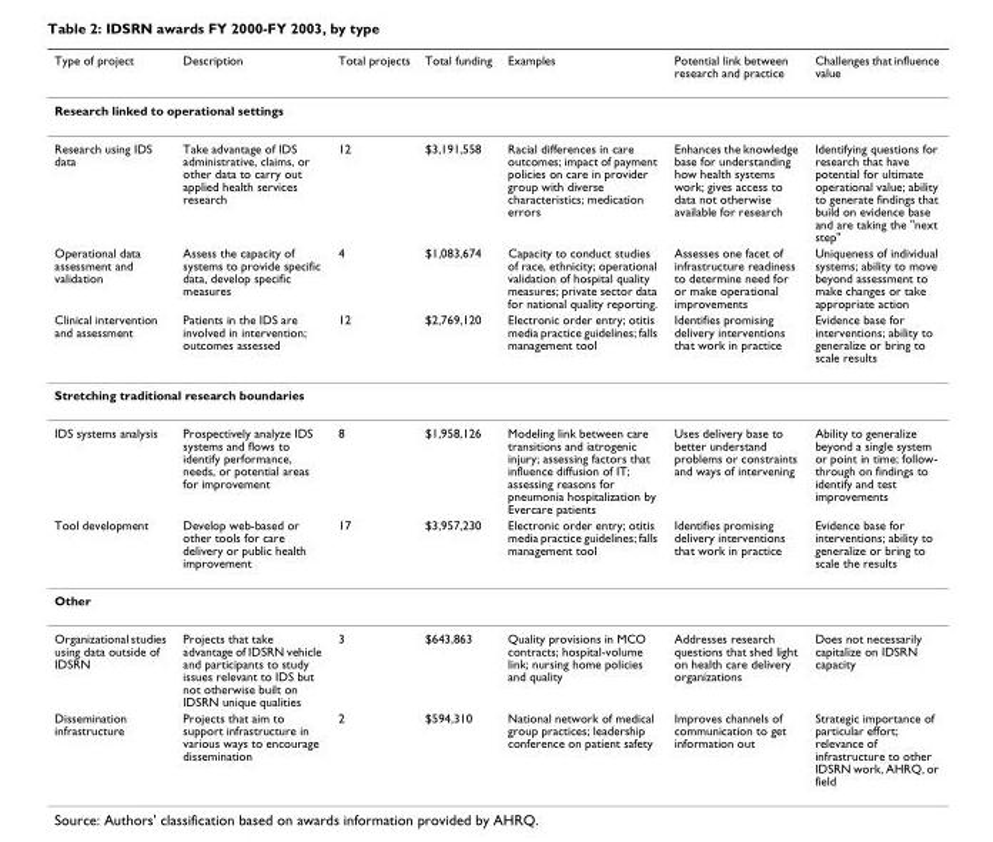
<table><thead><tr><td>Type of project</td><td>Description</td><td>Total projects</td><td>Total funding</td><td>Examples</td><td>Potential link between research and practice</td><td>Challenges that influence value</td></tr></thead><tbody><tr><td colspan="7">Research linked to operational settings</td></tr><tr><td>Research using IDS data</td><td>Take advantage of IDS administrative, claims, or other data to carry out applied health services research</td><td>12</td><td>$3,191,558</td><td>Racial differences in care outcomes; impact of payment policies on care in provider group with diverse characteristics; medication errors</td><td>Enhances the knowledge base for understanding how health systems work; gives access to data not otherwise available for research</td><td>Identifying questions for research that have potential for ultimate operational value; ability to generate findings that build on evidence base and are taking the &quot;next step&quot;</td></tr><tr><td>Operational data assessment and validation</td><td>Assess the capacity of systems to provide specific data, develop specific measures</td><td>4</td><td>$1,083,674</td><td>Capacity to conduct studies of race, ethnicity; operational validation of hospital quality measures; private sector data for national quality reporting.</td><td>Assesses one facet of infrastructure readiness to determine need for or make operational improvements</td><td>Uniqueness of individual systems; ability to move beyond assessment to make changes or take appropriate action</td></tr><tr><td>Clinical intervention and assessment</td><td>Patients in the IDS are involved in intervention; outcomes assessed</td><td>12</td><td>$2,769,120</td><td>Electronic order entry; otitis media practice guidelines; falls management tool</td><td>Identifies promising delivery interventions that work in practice</td><td>Evidence base for interventions; ability to generalize or bring to scale results</td></tr><tr><td colspan="7">Stretching traditional research boundaries</td></tr><tr><td>IDS systems analysis</td><td>Prospectively analyze IDS systems and flows to identify performance, needs, or potential areas for improvement</td><td>8</td><td>$1,958,126</td><td>Modeling link between care transitions and iatrogenic injury; assessing factors that influence diffusion of IT; assessing reasons for pneumonia hospitalization by Evercare patients</td><td>Uses delivery base to better understand problems or constraints and ways of intervening</td><td>Ability to generalize beyond a single system or point in time; follow- through on findings to identify and test improvements</td></tr><tr><td>Tool development</td><td>Develop web-based or other tools for care delivery or public health improvement</td><td>17</td><td>$3,957,230</td><td>Electronic order entry; otitis media practice guidelines; falls management tool</td><td>Identifies promising delivery interventions that work in practice</td><td>Evidence base for interventions; ability to generalize or bring to scale the results</td></tr><tr><td colspan="7">Other</td></tr><tr><td>Organizational studies using data outside of IDSRN</td><td>Projects that take advantage of IDSRN vehicle and participants to study issues relevant to IDS but not otherwise built on IDSRN unique qualities</td><td>3</td><td>$643,863</td><td>Quality provisions in MCO contracts; hospital-volume link; nursing home policies and quality</td><td>Addresses research questions that shed light on health care delivery organizations</td><td>Does not necessarily capitalize on IDSRN capacity</td></tr><tr><td>Dissemination infrastructure</td><td>Projects that aim to support infrastructure in various ways to encourage dissemination</td><td>2</td><td>$594,310</td><td>National network of medical group practices; leadership conference on patient safety</td><td>Improves channels of communication to get information out</td><td>Strategic importance of particular effort; relevance of infrastructure to other IDSRN work, AHRQ, or field</td></tr></tbody></table>